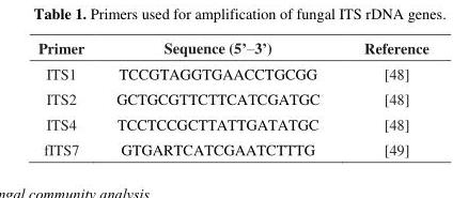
<table><thead><tr><td>Primer</td><td>Sequence (5’–3’)</td><td>Reference</td></tr></thead><tbody><tr><td>ITS1</td><td>TCCGTAGGTGAACCTGCGG</td><td>[48]</td></tr><tr><td>ITS2</td><td>GCTGCGTTCTTCATCGATGC</td><td>[48]</td></tr><tr><td>ITS4</td><td>TCCTCCGCTTATTGATATGC</td><td>[48]</td></tr><tr><td>fITS7</td><td>GTGARTCATCGAATCTTTG</td><td>[49]</td></tr></tbody></table>